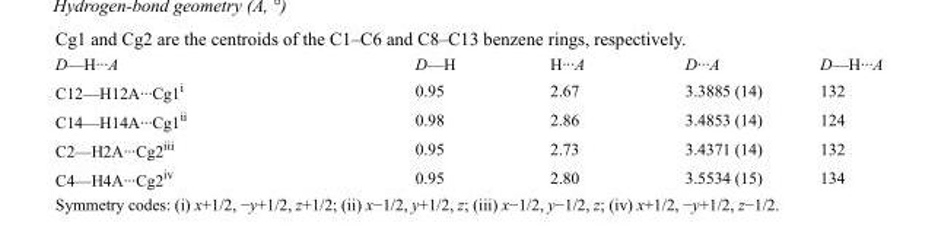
<table><tbody><tr><td>D—H···A</td><td>D—H</td><td>H···A</td><td>D···A</td><td>D—H···A</td></tr><tr><td>C12—H12A···Cg1<sup>i</sup></td><td>0.95</td><td>2.67</td><td>3.3885 (14)</td><td>132</td></tr><tr><td>C14—H14A···Cg1<sup>ii</sup></td><td>0.98</td><td>2.86</td><td>3.4853 (14)</td><td>124</td></tr><tr><td>C2—H2A···Cg2<sup>iii</sup></td><td>0.95</td><td>2.73</td><td>3.4371 (14)</td><td>132</td></tr><tr><td>C4—H4A···Cg2<sup>iv</sup></td><td>0.95</td><td>2.80</td><td>3.5534 (15)</td><td>134</td></tr></tbody></table>